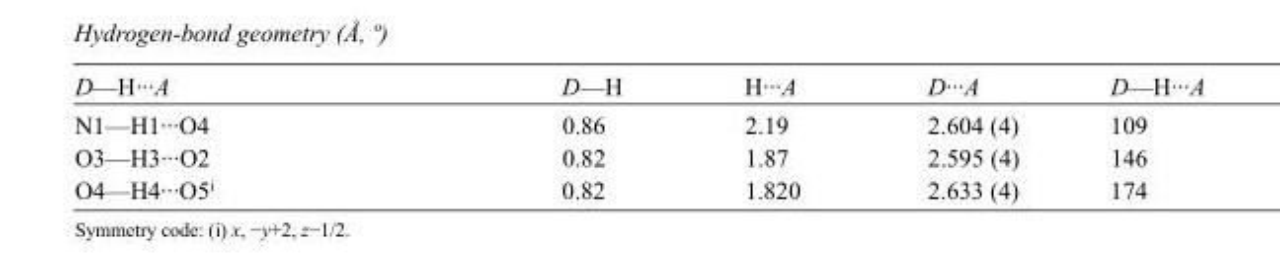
<table><tbody><tr><td>D—H···A</td><td>D—H</td><td>H···A</td><td>D···A</td><td>D—H···A</td></tr><tr><td>N1—H1···O4</td><td>0.86</td><td>2.19</td><td>2.604 (4)</td><td>109</td></tr><tr><td>O3—H3···O2</td><td>0.82</td><td>1.87</td><td>2.595 (4)</td><td>146</td></tr><tr><td>O4—H4···O5<sup>i</sup></td><td>0.82</td><td>1.820</td><td>2.633 (4)</td><td>174</td></tr></tbody></table>